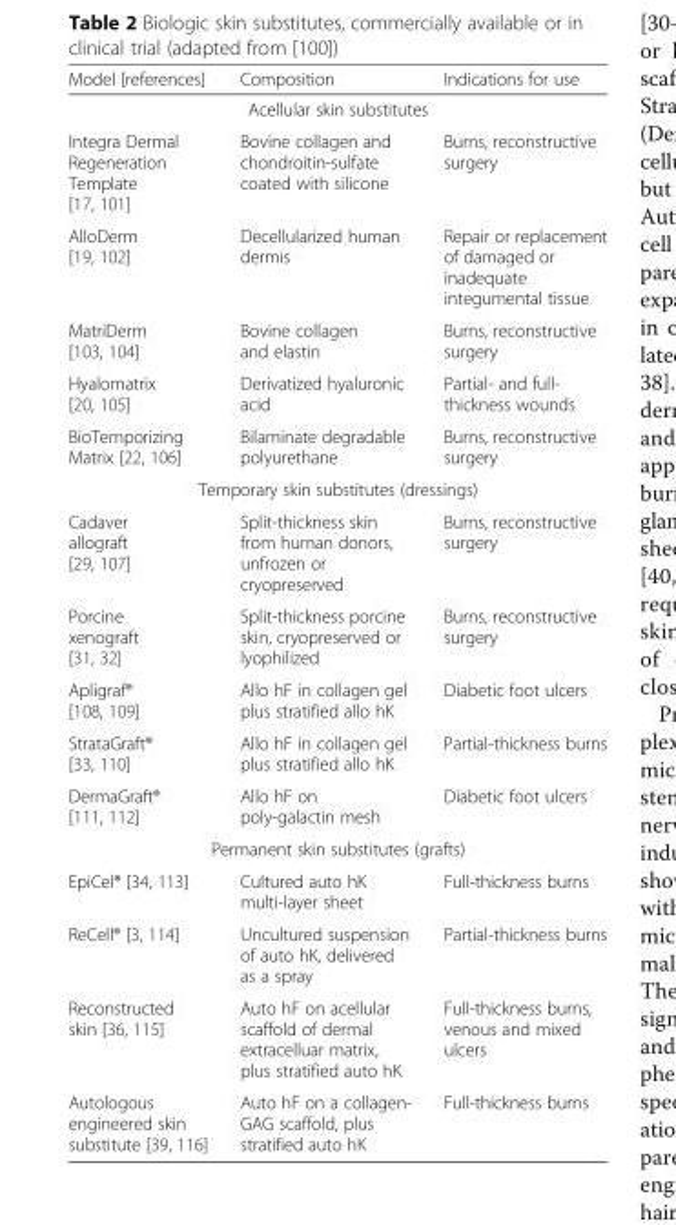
<table><thead><tr><td>Model [references]</td><td>Composition</td><td>Indications for use</td></tr></thead><tbody><tr><td colspan="3">Acellular skin substitutes</td></tr><tr><td>Integra Dermal Regeneration Template [17, 101]</td><td>Bovine collagen and chondroitin-sulfate coated with silicone</td><td>Burns, reconstructive surgery</td></tr><tr><td>AlloDerm [19, 102]</td><td>Decellularized human dermis</td><td>Repair or replacement of damaged or inadequate integumental tissue</td></tr><tr><td>MatriDerm [103, 104]</td><td>Bovine collagen and elastin</td><td>Burns, reconstructive surgery</td></tr><tr><td>Hyalomatrix [20, 105]</td><td>Derivatized hyaluronic acid</td><td>Partial- and full- thickness wounds</td></tr><tr><td>BioTemporizing Matrix [22, 106]</td><td>Bilaminate degradable polyurethane</td><td>Burns, reconstructive surgery</td></tr><tr><td colspan="3">Temporary skin substitutes (dressings)</td></tr><tr><td>Cadaver allograft [29, 107]</td><td>Split-thickness skin from human donors, unfrozen or cryopreserved</td><td>Burns, reconstructive surgery</td></tr><tr><td>Porcine xenograft [31, 32]</td><td>Split-thickness porcine skin, cryopreserved or lyophilized</td><td>Burns, reconstructive surgery</td></tr><tr><td>Apligraf® [108, 109]</td><td>Allo hF in collagen gel plus stratified allo hK</td><td>Diabetic foot ulcers</td></tr><tr><td>StrataGraft® [33, 110]</td><td>Allo hF in collagen gel plus stratified allo hK</td><td>Partial-thickness burns</td></tr><tr><td>DermaGraft® [111, 112]</td><td>Allo hF on poly-galactin mesh</td><td>Diabetic foot ulcers</td></tr><tr><td colspan="3">Permanent skin substitutes (grafts)</td></tr><tr><td>EpiCel® [34, 113]</td><td>Cultured auto hK multi-layer sheet</td><td>Full-thickness burns</td></tr><tr><td>ReCell® [3, 114]</td><td>Uncultured suspension of auto hK, delivered as a spray</td><td>Partial-thickness burns</td></tr><tr><td>Reconstructed skin [36, 115]</td><td>Auto hF on acellular scaffold of dermal extracelluar matrix, plus stratified auto hK</td><td>Full-thickness burns, venous and mixed ulcers</td></tr><tr><td>Autologous engineered skin substitute [39, 116]</td><td>Auto hF on a collagen- GAG scaffold, plus stratified auto hK</td><td>Full-thickness burns</td></tr></tbody></table>